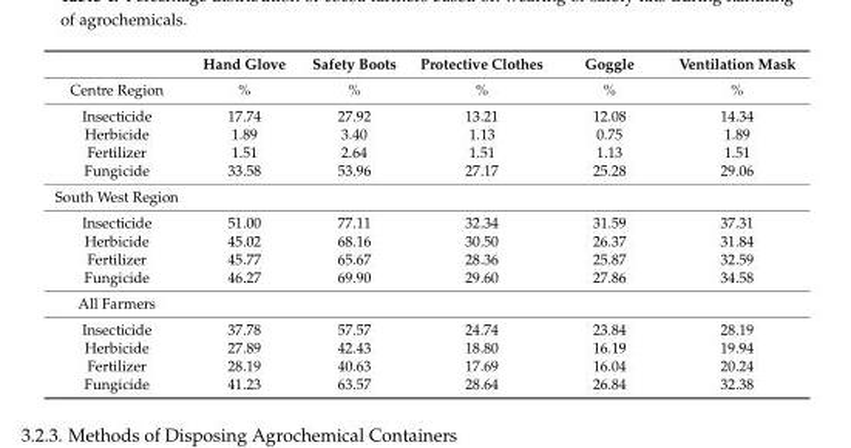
<table><thead><tr><td></td><td>Hand Glove</td><td>Safety Boots</td><td>Protective Clothes</td><td>Goggle</td><td>Ventilation Mask</td></tr></thead><tbody><tr><td>Centre Region</td><td>%</td><td>%</td><td>%</td><td>%</td><td>%</td></tr><tr><td>Insecticide</td><td>17.74</td><td>27.92</td><td>13.21</td><td>12.08</td><td>14.34</td></tr><tr><td>Herbicide</td><td>1.89</td><td>3.40</td><td>1.13</td><td>0.75</td><td>1.89</td></tr><tr><td>Fertilizer</td><td>1.51</td><td>2.64</td><td>1.51</td><td>1.13</td><td>1.51</td></tr><tr><td>Fungicide</td><td>33.58</td><td>53.96</td><td>27.17</td><td>25.28</td><td>29.06</td></tr><tr><td colspan="6">South West Region</td></tr><tr><td>Insecticide</td><td>51.00</td><td>77.11</td><td>32.34</td><td>31.59</td><td>37.31</td></tr><tr><td>Herbicide</td><td>45.02</td><td>68.16</td><td>30.50</td><td>26.37</td><td>31.84</td></tr><tr><td>Fertilizer</td><td>45.77</td><td>65.67</td><td>28.36</td><td>25.87</td><td>32.59</td></tr><tr><td>Fungicide</td><td>46.27</td><td>69.90</td><td>29.60</td><td>27.86</td><td>34.58</td></tr><tr><td colspan="6">All Farmers</td></tr><tr><td>Insecticide</td><td>37.78</td><td>57.57</td><td>24.74</td><td>23.84</td><td>28.19</td></tr><tr><td>Herbicide</td><td>27.89</td><td>42.43</td><td>18.80</td><td>16.19</td><td>19.94</td></tr><tr><td>Fertilizer</td><td>28.19</td><td>40.63</td><td>17.69</td><td>16.04</td><td>20.24</td></tr><tr><td>Fungicide</td><td>41.23</td><td>63.57</td><td>28.64</td><td>26.84</td><td>32.38</td></tr></tbody></table>